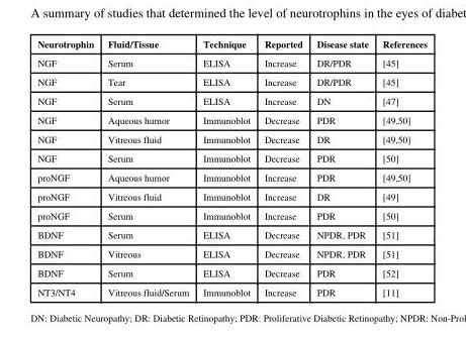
<table><thead><tr><td>Neurotrophin</td><td>Fluid/Tissue</td><td>Technique</td><td>Reported</td><td>Disease state</td><td>References</td></tr></thead><tbody><tr><td>NGF</td><td>Serum</td><td>ELISA</td><td>Increase</td><td>DR/PDR</td><td>[45]</td></tr><tr><td>NGF</td><td>Tear</td><td>ELISA</td><td>Increase</td><td>DR/PDR</td><td>[45]</td></tr><tr><td>NGF</td><td>Serum</td><td>ELISA</td><td>Increase</td><td>DN</td><td>[47]</td></tr><tr><td>NGF</td><td>Aqueous humor</td><td>Immunoblot</td><td>Decrease</td><td>PDR</td><td>[49,50]</td></tr><tr><td>NGF</td><td>Vitreous fluid</td><td>Immunoblot</td><td>Decrease</td><td>DR</td><td>[49,50]</td></tr><tr><td>NGF</td><td>Serum</td><td>Immunoblot</td><td>Decrease</td><td>PDR</td><td>[50]</td></tr><tr><td>proNGF</td><td>Aqueous humor</td><td>Immunoblot</td><td>Increase</td><td>PDR</td><td>[49,50]</td></tr><tr><td>proNGF</td><td>Vitreous fluid</td><td>Immunoblot</td><td>Increase</td><td>DR</td><td>[49]</td></tr><tr><td>proNGF</td><td>Serum</td><td>Immunoblot</td><td>Increase</td><td>PDR</td><td>[50]</td></tr><tr><td>BDNF</td><td>Serum</td><td>ELISA</td><td>Decrease</td><td>NPDR, PDR</td><td>[51]</td></tr><tr><td>BDNF</td><td>Vitreous</td><td>ELISA</td><td>Decrease</td><td>NPDR, PDR</td><td>[51]</td></tr><tr><td>BDNF</td><td>Serum</td><td>ELISA</td><td>Decrease</td><td>PDR</td><td>[52]</td></tr><tr><td>NT3/NT4</td><td>Vitreous fluid/Serum</td><td>Immunoblot</td><td>Increase</td><td>PDR</td><td>[11]</td></tr></tbody></table>